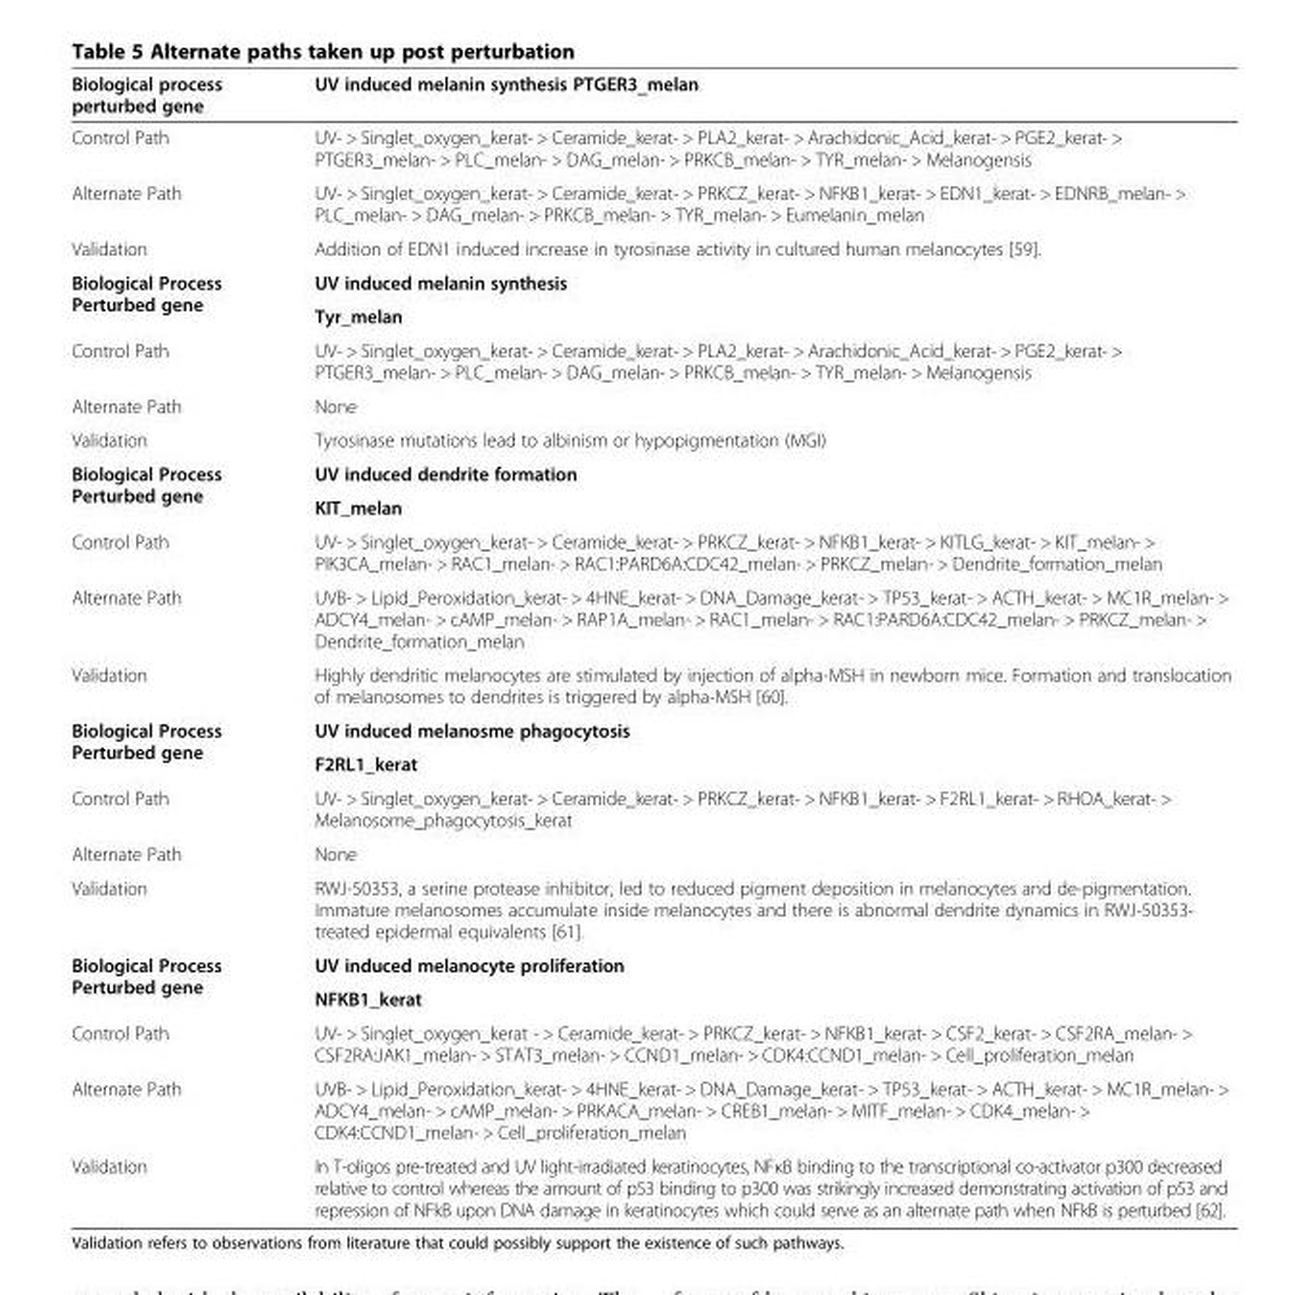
<table><thead><tr><td>Biological process perturbed gene</td><td>UV induced melanin synthesis PTGER3_melan</td></tr></thead><tbody><tr><td>Control Path</td><td>UV- &gt; Singlet_oxygen_kerat- &gt; Ceramide_kerat- &gt; PLA2_kerat- &gt; Arachidonic_Acid_kerat- &gt; PGE2_kerat- &gt; PTGER3_melan- &gt; PLC_melan- &gt; DAG_melan- &gt; PRKCB_melan- &gt; TYR_melan- &gt; Melanogensis</td></tr><tr><td>Alternate Path</td><td>UV- &gt; Singlet_oxygen_kerat- &gt; Ceramide_kerat- &gt; PRKCZ_kerat- &gt; NFKB1_kerat- &gt; EDN1_kerat- &gt; EDNRB_melan- &gt; PLC_melan- &gt; DAG_melan- &gt; PRKCB_melan- &gt; TYR_melan- &gt; Eumelanin_melan</td></tr><tr><td>Validation</td><td>Addition of EDN1 induced increase in tyrosinase activity in cultured human melanocytes [59].</td></tr><tr><td rowspan="2">Biological Process Perturbed gene</td><td>UV induced melanin synthesis</td></tr><tr><td>Tyr_melan</td></tr><tr><td>Control Path</td><td>UV- &gt; Singlet_oxygen_kerat- &gt; Ceramide_kerat- &gt; PLA2_kerat- &gt; Arachidonic_Acid_kerat- &gt; PGE2_kerat- &gt; PTGER3_melan- &gt; PLC_melan- &gt; DAG_melan- &gt; PRKCB_melan- &gt; TYR_melan- &gt; Melanogensis</td></tr><tr><td>Alternate Path</td><td>None</td></tr><tr><td>Validation</td><td>Tyrosinase mutations lead to albinism or hypopigmentation (MGI)</td></tr><tr><td rowspan="2">Biological Process Perturbed gene</td><td>UV induced dendrite formation</td></tr><tr><td>KIT_melan</td></tr><tr><td>Control Path</td><td>UV- &gt; Singlet_oxygen_kerat- &gt; Ceramide_kerat- &gt; PRKCZ_kerat- &gt; NFKB1_kerat- &gt; KITLG_kerat- &gt; KIT_melan- &gt; PIK3CA_melan- &gt; RAC1_melan- &gt; RAC1:PARD6A:CDC42_melan- &gt; PRKCZ_melan- &gt; Dendrite_formation_melan</td></tr><tr><td>Alternate Path</td><td>UVB- &gt; Lipid_Peroxidation_kerat- &gt; 4HNE_kerat- &gt; DNA_Damage_kerat- &gt; TP53_kerat- &gt; ACTH_kerat- &gt; MC1R_melan- &gt; ADCY4_melan- &gt; cAMP_melan- &gt; RAP1A_melan- &gt; RAC1_melan- &gt; RAC1:PARD6A:CDC42_melan- &gt; PRKCZ_melan- &gt; Dendrite_formation_melan</td></tr><tr><td>Validation</td><td>Highly dendritic melanocytes are stimulated by injection of alpha-MSH in newborn mice. Formation and translocation of melanosomes to dendrites is triggered by alpha-MSH [60].</td></tr><tr><td rowspan="2">Biological Process Perturbed gene</td><td>UV induced melanosme phagocytosis</td></tr><tr><td>F2RL1_kerat</td></tr><tr><td>Control Path</td><td>UV- &gt; Singlet_oxygen_kerat- &gt; Ceramide_kerat- &gt; PRKCZ_kerat- &gt; NFKB1_kerat- &gt; F2RL1_kerat- &gt; RHOA_kerat- &gt; Melanosome_phagocytosis_kerat</td></tr><tr><td>Alternate Path</td><td>None</td></tr><tr><td>Validation</td><td>RWJ-50353, a serine protease inhibitor, led to reduced pigment deposition in melanocytes and de-pigmentation. Immature melanosomes accumulate inside melanocytes and there is abnormal dendrite dynamics in RWJ-50353- treated epidermal equivalents [61].</td></tr><tr><td rowspan="2">Biological Process Perturbed gene</td><td>UV induced melanocyte proliferation</td></tr><tr><td>NFKB1_kerat</td></tr><tr><td>Control Path</td><td>UV- &gt; Singlet_oxygen_kerat - &gt; Ceramide_kerat- &gt; PRKCZ_kerat- &gt; NFKB1_kerat- &gt; CSF2_kerat- &gt; CSF2RA_melan- &gt; CSF2RA:JAK1_melan- &gt; STAT3_melan- &gt; CCND1_melan- &gt; CDK4:CCND1_melan- &gt; Cell_proliferation_melan</td></tr><tr><td>Alternate Path</td><td>UVB- &gt; Lipid_Peroxidation_kerat- &gt; 4HNE_kerat- &gt; DNA_Damage_kerat- &gt; TP53_kerat- &gt; ACTH_kerat- &gt; MC1R_melan- &gt; ADCY4_melan- &gt; cAMP_melan- &gt; PRKACA_melan- &gt; CREB1_melan- &gt; MITF_melan- &gt; CDK4_melan- &gt; CDK4:CCND1_melan- &gt; Cell_proliferation_melan</td></tr><tr><td>Validation</td><td>In T-oligos pre-treated and UV light-irradiated keratinocytes, NFκB binding to the transcriptional co-activator p300 decreased relative to control whereas the amount of p53 binding to p300 was strikingly increased demonstrating activation of p53 and repression of NFkB upon DNA damage in keratinocytes which could serve as an alternate path when NFkB is perturbed [62].</td></tr></tbody></table>